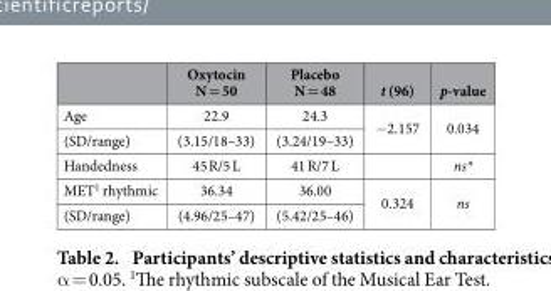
<table><thead><tr><td></td><td>Oxytocin N = 50</td><td>Placebo N = 48</td><td>t (96)</td><td>p-value</td></tr></thead><tbody><tr><td>Age</td><td>22.9</td><td>24.3</td><td rowspan="2">− 2.157</td><td rowspan="2">0.034</td></tr><tr><td>(SD/range)</td><td>(3.15/18–33)</td><td>(3.24/19–33)</td></tr><tr><td>Handedness</td><td>45 R/5 L</td><td>41 R/7 L</td><td></td><td>ns*</td></tr><tr><td>MET<sup>1</sup> rhythmic</td><td>36.34</td><td>36.00</td><td rowspan="2">0.324</td><td rowspan="2">ns</td></tr><tr><td>(SD/range)</td><td>(4.96/25–47)</td><td>(5.42/25–46)</td></tr></tbody></table>